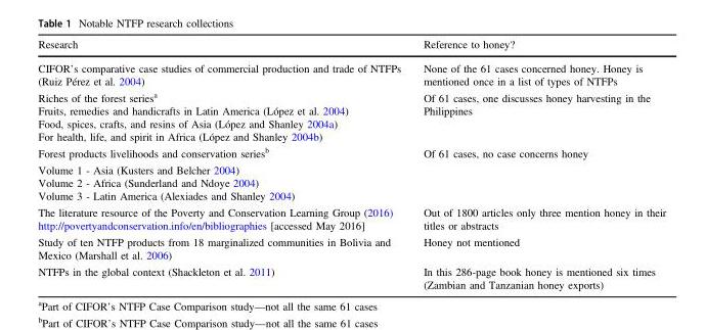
<table><thead><tr><td>Research</td><td>Reference to honey?</td></tr></thead><tbody><tr><td>CIFOR’s comparative case studies of commercial production and trade of NTFPs (Ruiz Pérez et al. 2004)</td><td>None of the 61 cases concerned honey. Honey is mentioned once in a list of types of NTFPs</td></tr><tr><td>Riches of the forest series<sup>a</sup> Fruits, remedies and handicrafts in Latin America (López et al. 2004) Food, spices, crafts, and resins of Asia (López and Shanley 2004a) For health, life, and spirit in Africa (López and Shanley 2004b)</td><td>Of 61 cases, one discusses honey harvesting in the Philippines</td></tr><tr><td>Forest products livelihoods and conservation series<sup>b</sup></td><td>Of 61 cases, no case concerns honey</td></tr><tr><td colspan="2">Volume 1 - Asia (Kusters and Belcher 2004) Volume 2 - Africa (Sunderland and Ndoye 2004) Volume 3 - Latin America (Alexiades and Shanley 2004)</td></tr><tr><td>The literature resource of the Poverty and Conservation Learning Group (2016) http://povertyandconservation.info/en/bibliographies [accessed May 2016]</td><td>Out of 1800 articles only three mention honey in their titles or abstracts</td></tr><tr><td>Study of ten NTFP products from 18 marginalized communities in Bolivia and Mexico (Marshall et al. 2006)</td><td>Honey not mentioned</td></tr><tr><td>NTFPs in the global context (Shackleton et al. 2011)</td><td>In this 286-page book honey is mentioned six times (Zambian and Tanzanian honey exports)</td></tr></tbody></table>